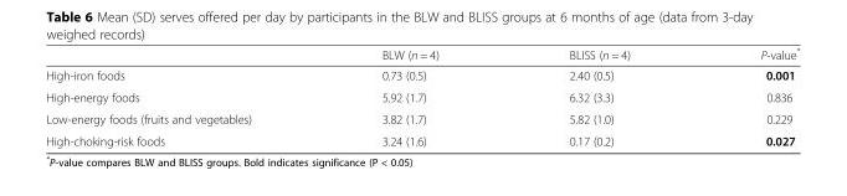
<table><thead><tr><td></td><td>BLW (n = 4)</td><td>BLISS (n = 4)</td><td>P-value*</td></tr></thead><tbody><tr><td>High-iron foods</td><td>0.73 (0.5)</td><td>2.40 (0.5)</td><td>0.001</td></tr><tr><td>High-energy foods</td><td>5.92 (1.7)</td><td>6.32 (3.3)</td><td>0.836</td></tr><tr><td>Low-energy foods (fruits and vegetables)</td><td>3.82 (1.7)</td><td>5.82 (1.0)</td><td>0.229</td></tr><tr><td>High-choking-risk foods</td><td>3.24 (1.6)</td><td>0.17 (0.2)</td><td>0.027</td></tr></tbody></table>